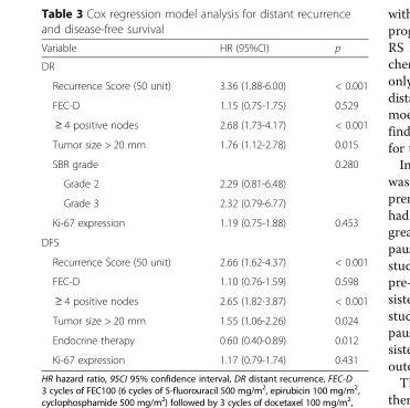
<table><thead><tr><td>Variable</td><td>HR (95%CI)</td><td>p</td></tr></thead><tbody><tr><td colspan="3">DR</td></tr><tr><td>Recurrence Score (50 unit)</td><td>3.36 (1.88-6.00)</td><td>&lt; 0.001</td></tr><tr><td>FEC-D</td><td>1.15 (0.75-1.75)</td><td>0.529</td></tr><tr><td>≥ 4 positive nodes</td><td>2.68 (1.73-4.17)</td><td>&lt; 0.001</td></tr><tr><td>Tumor size &gt; 20 mm</td><td>1.76 (1.12-2.78)</td><td>0.015</td></tr><tr><td>SBR grade</td><td></td><td>0.280</td></tr><tr><td>Grade 2</td><td>2.29 (0.81-6.48)</td><td></td></tr><tr><td>Grade 3</td><td>2.32 (0.79-6.77)</td><td></td></tr><tr><td>Ki-67 expression</td><td>1.19 (0.75-1.88)</td><td>0.453</td></tr><tr><td colspan="3">DFS</td></tr><tr><td>Recurrence Score (50 unit)</td><td>2.66 (1.62-4.37)</td><td>&lt; 0.001</td></tr><tr><td>FEC-D</td><td>1.10 (0.76-1.59)</td><td>0.598</td></tr><tr><td>≥ 4 positive nodes</td><td>2.65 (1.82-3.87)</td><td>&lt; 0.001</td></tr><tr><td>Tumor size &gt; 20 mm</td><td>1.55 (1.06-2.26)</td><td>0.024</td></tr><tr><td>Endocrine therapy</td><td>0.60 (0.40-0.89)</td><td>0.012</td></tr><tr><td>Ki-67 expression</td><td>1.17 (0.79-1.74)</td><td>0.431</td></tr></tbody></table>